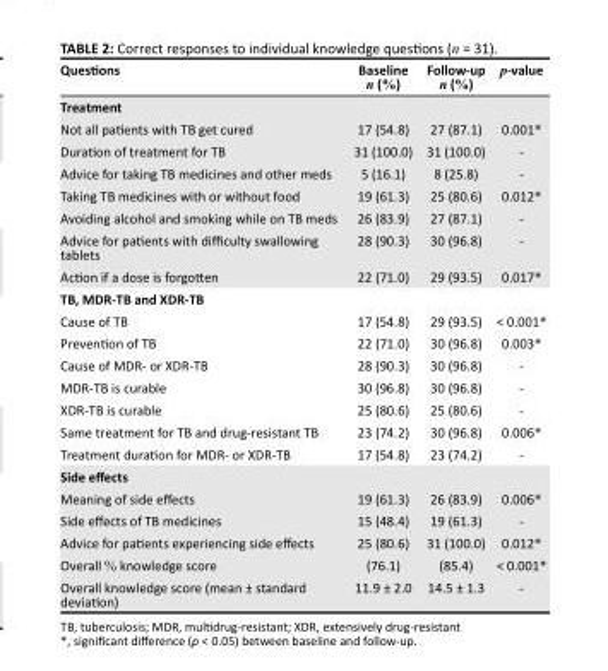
<table><thead><tr><td>Questions</td><td>Baseline n (%)</td><td>Follow-up n (%)</td><td>p-value</td></tr></thead><tbody><tr><td colspan="4">Treatment</td></tr><tr><td>Not all patients with TB get cured</td><td>17 (54.8)</td><td>27 (87.1)</td><td>0.001*</td></tr><tr><td>Duration of treatment for TB</td><td>31 (100.0)</td><td>31 (100.0)</td><td>-</td></tr><tr><td>Advice for taking TB medicines and other meds</td><td>5 (16.1)</td><td>8 (25.8)</td><td>-</td></tr><tr><td>Taking TB medicines with or without food</td><td>19 (61.3)</td><td>25 (80.6)</td><td>0.012*</td></tr><tr><td>Avoiding alcohol and smoking while on TB meds</td><td>26 (83.9)</td><td>27 (87.1)</td><td>-</td></tr><tr><td>Advice for patients with difficulty swallowing tablets</td><td>28 (90.3)</td><td>30 (96.8)</td><td>-</td></tr><tr><td>Action if a dose is forgotten</td><td>22 (71.0)</td><td>29 (93.5)</td><td>0.017*</td></tr><tr><td colspan="4">TB, MDR-TB and XDR-TB</td></tr><tr><td>Cause of TB</td><td>17 (54.8)</td><td>29 (93.5)</td><td>&lt; 0.001*</td></tr><tr><td>Prevention of TB</td><td>22 (71.0)</td><td>30 (96.8)</td><td>0.003*</td></tr><tr><td>Cause of MDR- or XDR-TB</td><td>28 (90.3)</td><td>30 (96.8)</td><td>-</td></tr><tr><td>MDR-TB is curable</td><td>30 (96.8)</td><td>30 (96.8)</td><td>-</td></tr><tr><td>XDR-TB is curable</td><td>25 (80.6)</td><td>25 (80.6)</td><td>-</td></tr><tr><td>Same treatment for TB and drug-resistant TB</td><td>23 (74.2)</td><td>30 (96.8)</td><td>0.006*</td></tr><tr><td>Treatment duration for MDR- or XDR-TB</td><td>17 (54.8)</td><td>23 (74.2)</td><td>-</td></tr><tr><td colspan="4">Side effects</td></tr><tr><td>Meaning of side effects</td><td>19 (61.3)</td><td>26 (83.9)</td><td>0.006*</td></tr><tr><td>Side effects of TB medicines</td><td>15 (48.4)</td><td>19 (61.3)</td><td>-</td></tr><tr><td>Advice for patients experiencing side effects</td><td>25 (80.6)</td><td>31 (100.0)</td><td>0.012*</td></tr><tr><td>Overall % knowledge score</td><td>(76.1)</td><td>(85.4)</td><td>&lt; 0.001*</td></tr><tr><td>Overall knowledge score (mean ± standard deviation)</td><td>11.9 ± 2.0</td><td>14.5 ± 1.3</td><td>-</td></tr></tbody></table>